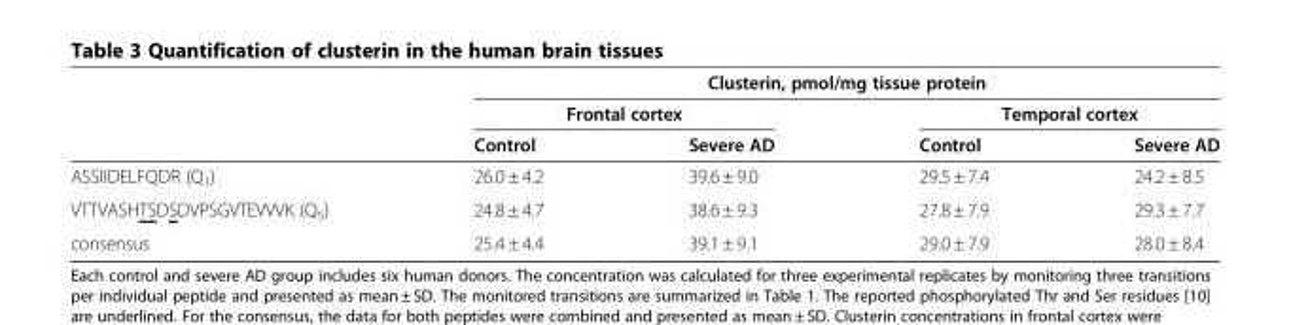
<table><thead><tr><td rowspan="3"></td><td colspan="4">Clusterin, pmol/mg tissue protein</td></tr><tr><td colspan="2">Frontal cortex</td><td colspan="2">Temporal cortex</td></tr><tr><td>Control</td><td>Severe AD</td><td>Control</td><td>Severe AD</td></tr></thead><tbody><tr><td>ASSIIDELFQDR (Q<sub>1</sub>)</td><td>26.0 ± 4.2</td><td>39.6 ± 9.0</td><td>29.5 ± 7.4</td><td>24.2 ± 8.5</td></tr><tr><td>VTTVASHTSDSDVPSGVTEVVVK (Q<sub>5</sub>)</td><td>24.8 ± 4.7</td><td>38.6 ± 9.3</td><td>27.8 ± 7.9</td><td>29.3 ± 7.7</td></tr><tr><td>consensus</td><td>25.4 ± 4.4</td><td>39.1 ± 9.1</td><td>29.0 ± 7.9</td><td>28.0 ± 8.4</td></tr></tbody></table>